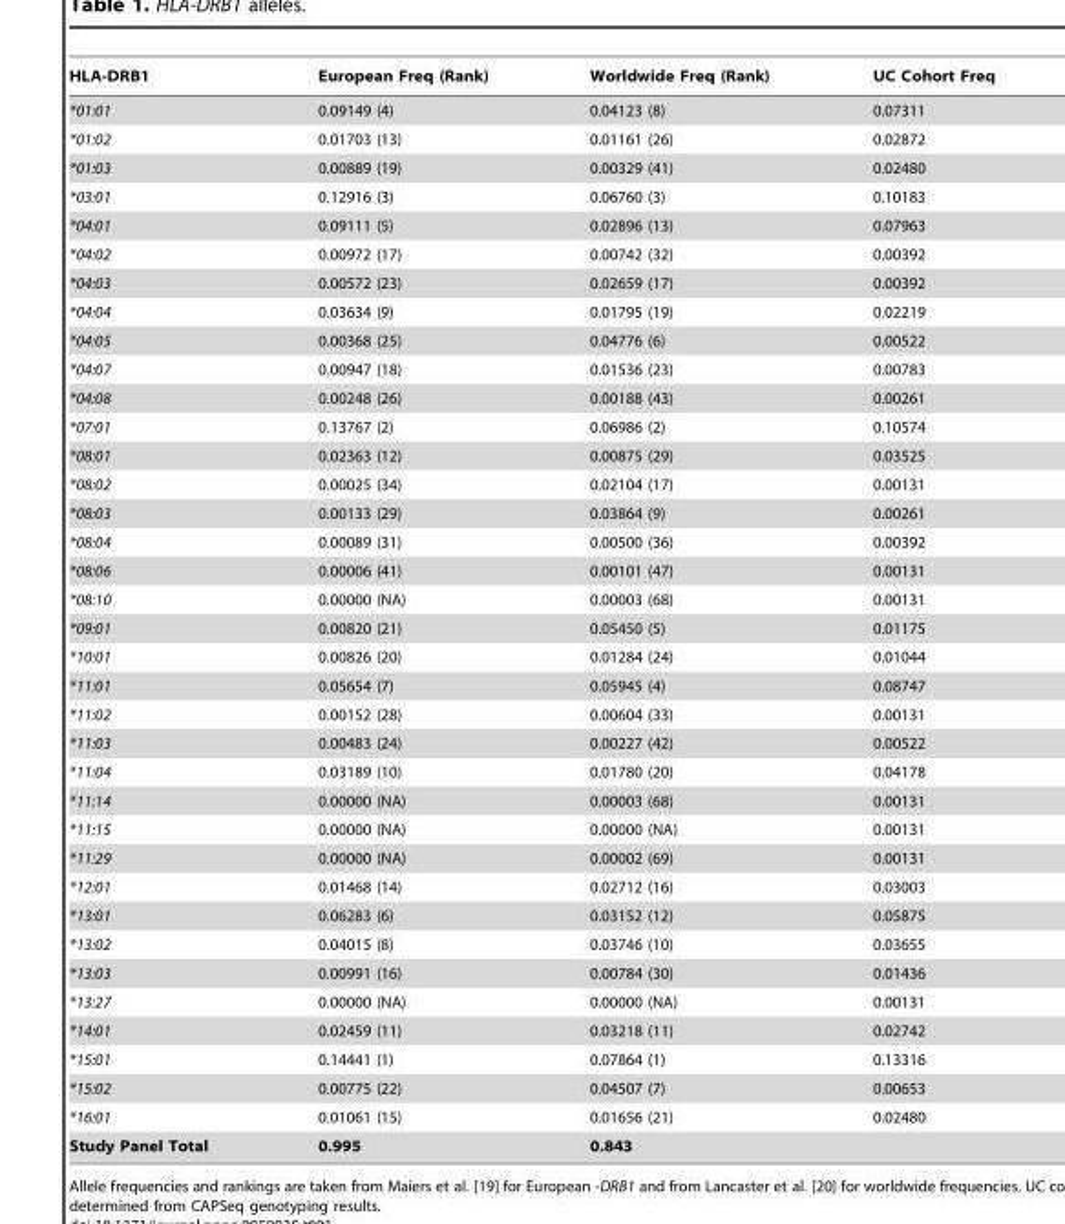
<table><thead><tr><td>HLA-DRB1</td><td>European Freq (Rank)</td><td>Worldwide Freq (Rank)</td><td>UC Cohort Freq</td></tr></thead><tbody><tr><td>*01:01</td><td>0.09149 (4)</td><td>0.04123 (8)</td><td>0.07311</td></tr><tr><td>*01:02</td><td>0.01703 (13)</td><td>0.01161 (26)</td><td>0.02872</td></tr><tr><td>*01:03</td><td>0.00889 (19)</td><td>0.00329 (41)</td><td>0.02480</td></tr><tr><td>*03:01</td><td>0.12916 (3)</td><td>0.06760 (3)</td><td>0.10183</td></tr><tr><td>*04:01</td><td>0.09111 (5)</td><td>0.02896 (13)</td><td>0.07963</td></tr><tr><td>*04:02</td><td>0.00972 (17)</td><td>0.00742 (32)</td><td>0.00392</td></tr><tr><td>*04:03</td><td>0.00572 (23)</td><td>0.02659 (17)</td><td>0.00392</td></tr><tr><td>*04:04</td><td>0.03634 (9)</td><td>0.01795 (19)</td><td>0.02219</td></tr><tr><td>*04:05</td><td>0.00368 (25)</td><td>0.04776 (6)</td><td>0.00522</td></tr><tr><td>*04:07</td><td>0.00947 (18)</td><td>0.01536 (23)</td><td>0.00783</td></tr><tr><td>*04:08</td><td>0.00248 (26)</td><td>0.00188 (43)</td><td>0.00261</td></tr><tr><td>*07:01</td><td>0.13767 (2)</td><td>0.06986 (2)</td><td>0.10574</td></tr><tr><td>*08:01</td><td>0.02363 (12)</td><td>0.00875 (29)</td><td>0.03525</td></tr><tr><td>*08:02</td><td>0.00025 (34)</td><td>0.02104 (17)</td><td>0.00131</td></tr><tr><td>*08:03</td><td>0.00133 (29)</td><td>0.03864 (9)</td><td>0.00261</td></tr><tr><td>*08:04</td><td>0.00089 (31)</td><td>0.00500 (36)</td><td>0.00392</td></tr><tr><td>*08:06</td><td>0.00006 (41)</td><td>0.00101 (47)</td><td>0.00131</td></tr><tr><td>*08:10</td><td>0.00000 (NA)</td><td>0.00003 (68)</td><td>0.00131</td></tr><tr><td>*09:01</td><td>0.00820 (21)</td><td>0.05450 (5)</td><td>0.01175</td></tr><tr><td>*10:01</td><td>0.00826 (20)</td><td>0.01284 (24)</td><td>0.01044</td></tr><tr><td>*11:01</td><td>0.05654 (7)</td><td>0.05945 (4)</td><td>0.08747</td></tr><tr><td>*11:02</td><td>0.00152 (28)</td><td>0.00604 (33)</td><td>0.00131</td></tr><tr><td>*11:03</td><td>0.00483 (24)</td><td>0.00227 (42)</td><td>0.00522</td></tr><tr><td>*11:04</td><td>0.03189 (10)</td><td>0.01780 (20)</td><td>0.04178</td></tr><tr><td>*11:14</td><td>0.00000 (NA)</td><td>0.00003 (68)</td><td>0.00131</td></tr><tr><td>*11:15</td><td>0.00000 (NA)</td><td>0.00000 (NA)</td><td>0.00131</td></tr><tr><td>*11:29</td><td>0.00000 (NA)</td><td>0.00002 (69)</td><td>0.00131</td></tr><tr><td>*12:01</td><td>0.01468 (14)</td><td>0.02712 (16)</td><td>0.03003</td></tr><tr><td>*13:01</td><td>0.06283 (6)</td><td>0.03152 (12)</td><td>0.05875</td></tr><tr><td>*13:02</td><td>0.04015 (8)</td><td>0.03746 (10)</td><td>0.03655</td></tr><tr><td>*13:03</td><td>0.00991 (16)</td><td>0.00784 (30)</td><td>0.01436</td></tr><tr><td>*13:27</td><td>0.00000 (NA)</td><td>0.00000 (NA)</td><td>0.00131</td></tr><tr><td>*14:01</td><td>0.02459 (11)</td><td>0.03218 (11)</td><td>0.02742</td></tr><tr><td>*15:01</td><td>0.14441 (1)</td><td>0.07864 (1)</td><td>0.13316</td></tr><tr><td>*15:02</td><td>0.00775 (22)</td><td>0.04507 (7)</td><td>0.00653</td></tr><tr><td>*16:01</td><td>0.01061 (15)</td><td>0.01656 (21)</td><td>0.02480</td></tr><tr><td>Study Panel Total</td><td>0.995</td><td>0.843</td><td></td></tr></tbody></table>